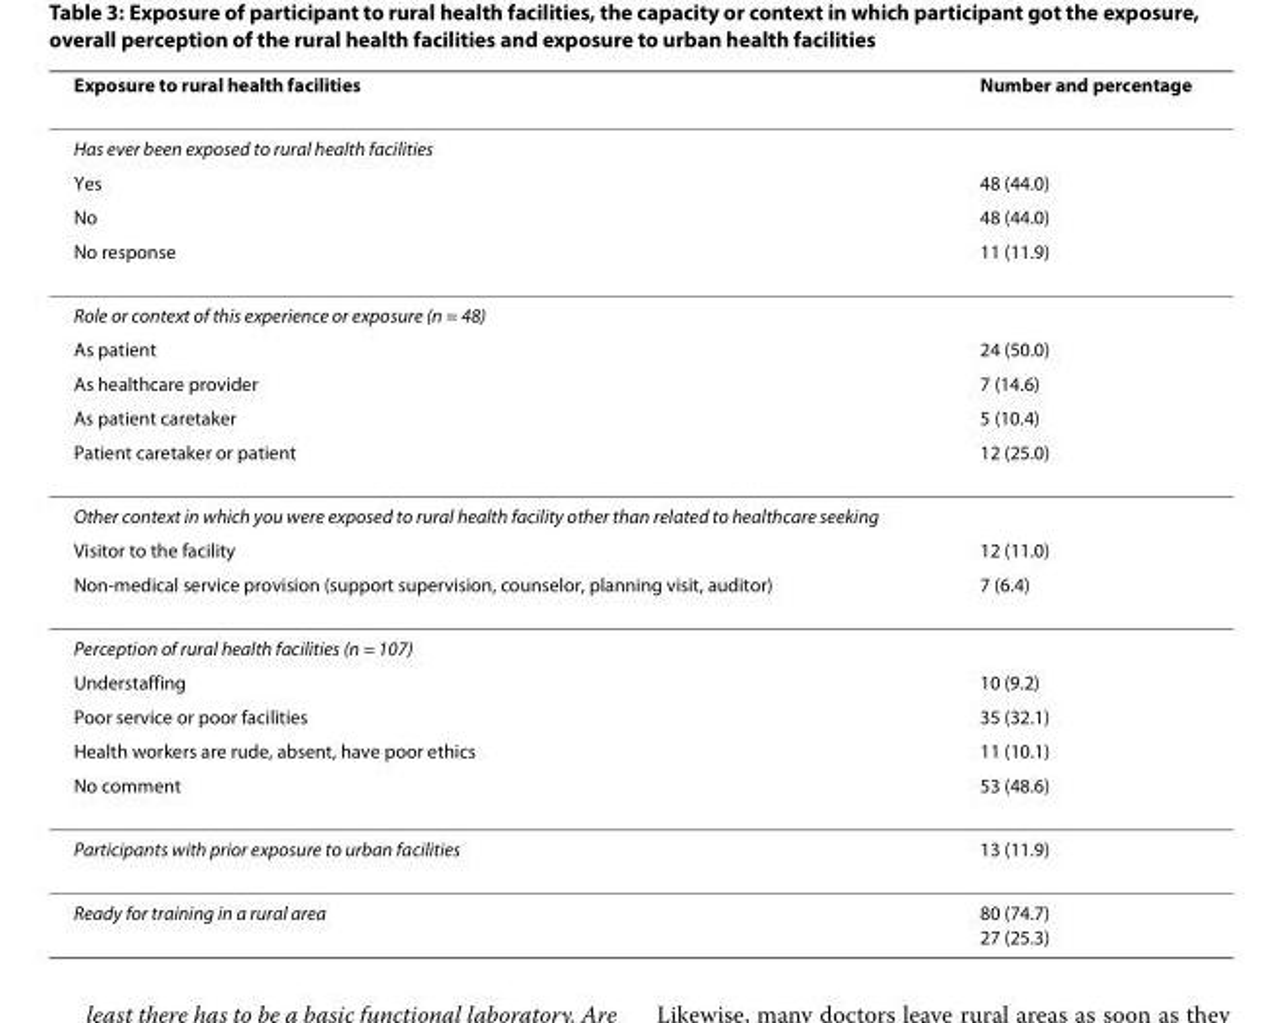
<table><thead><tr><td>Exposure to rural health facilities</td><td>Number and percentage</td></tr></thead><tbody><tr><td colspan="2">Has ever been exposed to rural health facilities</td></tr><tr><td>Yes</td><td>48 (44.0)</td></tr><tr><td>No</td><td>48 (44.0)</td></tr><tr><td>No response</td><td>11 (11.9)</td></tr><tr><td colspan="2">Role or context of this experience or exposure (n = 48)</td></tr><tr><td>As patient</td><td>24 (50.0)</td></tr><tr><td>As healthcare provider</td><td>7 (14.6)</td></tr><tr><td>As patient caretaker</td><td>5 (10.4)</td></tr><tr><td>Patient caretaker or patient</td><td>12 (25.0)</td></tr><tr><td colspan="2">Other context in which you were exposed to rural health facility other than related to healthcare seeking</td></tr><tr><td>Visitor to the facility</td><td>12 (11.0)</td></tr><tr><td>Non-medical service provision (support supervision, counselor, planning visit, auditor)</td><td>7 (6.4)</td></tr><tr><td colspan="2">Perception of rural health facilities (n = 107)</td></tr><tr><td>Understaffing</td><td>10 (9.2)</td></tr><tr><td>Poor service or poor facilities</td><td>35 (32.1)</td></tr><tr><td>Health workers are rude, absent, have poor ethics</td><td>11 (10.1)</td></tr><tr><td>No comment</td><td>53 (48.6)</td></tr><tr><td>Participants with prior exposure to urban facilities</td><td>13 (11.9)</td></tr><tr><td>Ready for training in a rural area</td><td>80 (74.7) 27 (25.3)</td></tr></tbody></table>